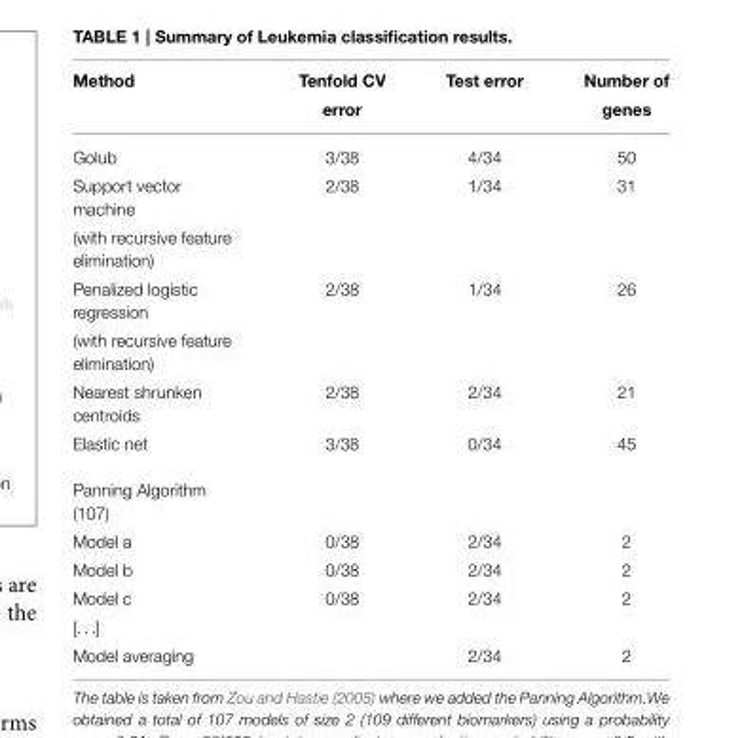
<table><thead><tr><td>Method</td><td>Tenfold CV error</td><td>Test error</td><td>Number of genes</td></tr></thead><tbody><tr><td>Golub</td><td>3/38</td><td>4/34</td><td>50</td></tr><tr><td>Support vector machine</td><td>2/38</td><td>1/34</td><td>31</td></tr><tr><td colspan="4">(with recursive feature elimination)</td></tr><tr><td>Penalized logistic regression</td><td>2/38</td><td>1/34</td><td>26</td></tr><tr><td colspan="4">(with recursive feature elimination)</td></tr><tr><td>Nearest shrunken centroids</td><td>2/38</td><td>2/34</td><td>21</td></tr><tr><td>Elastic net</td><td>3/38</td><td>0/34</td><td>45</td></tr><tr><td colspan="4">Panning Algorithm (107)</td></tr><tr><td>Model a</td><td>0/38</td><td>2/34</td><td>2</td></tr><tr><td>Model b</td><td>0/38</td><td>2/34</td><td>2</td></tr><tr><td>Model c</td><td>0/38</td><td>2/34</td><td>2</td></tr><tr><td colspan="4">[. . .]</td></tr><tr><td>Model averaging</td><td></td><td>2/34</td><td>2</td></tr></tbody></table>